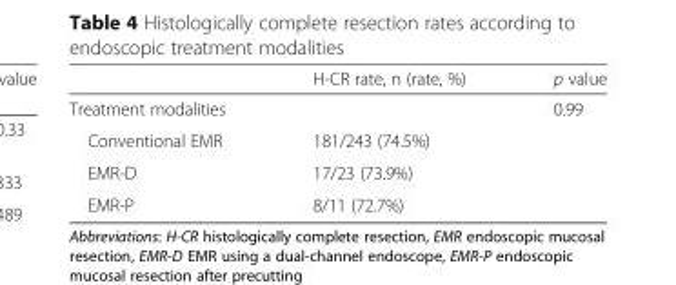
<table><thead><tr><td></td><td>H-CR rate, n (rate, %)</td><td>p value</td></tr></thead><tbody><tr><td>Treatment modalities</td><td></td><td>0.99</td></tr><tr><td>Conventional EMR</td><td>181/243 (74.5%)</td><td></td></tr><tr><td>EMR-D</td><td>17/23 (73.9%)</td><td></td></tr><tr><td>EMR-P</td><td>8/11 (72.7%)</td><td></td></tr></tbody></table>